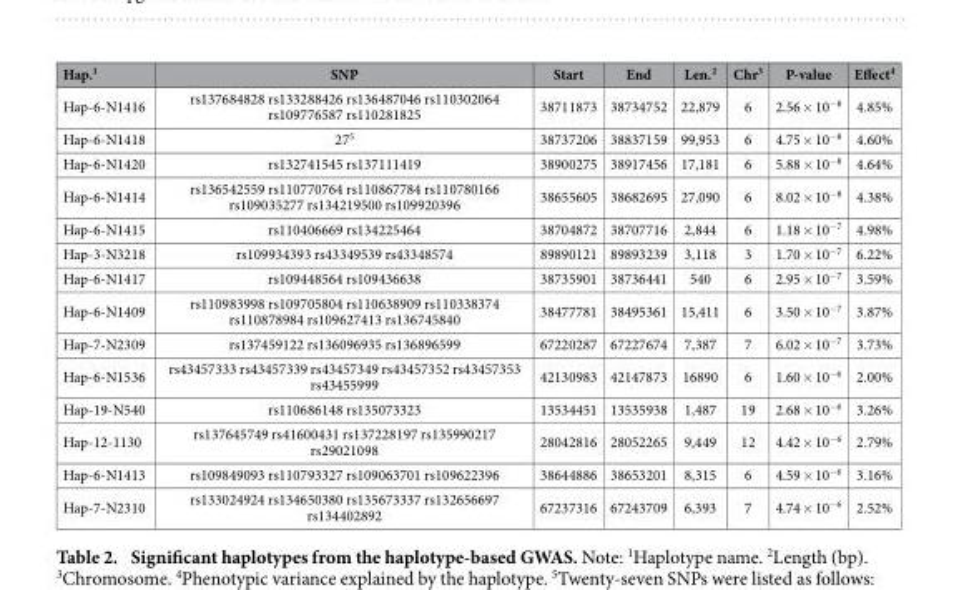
<table><thead><tr><td>Hap.<sup>1</sup></td><td>SNP</td><td>Start</td><td>End</td><td>Len.<sup>2</sup></td><td>Chr<sup>3</sup></td><td>P-value</td><td>Effect<sup>4</sup></td></tr></thead><tbody><tr><td>Hap-6-N1416</td><td>rs137684828 rs133288426 rs136487046 rs110302064 rs109776587 rs110281825</td><td>38711873</td><td>38734752</td><td>22,879</td><td>6</td><td>2.56 × 10<sup>−8</sup></td><td>4.85%</td></tr><tr><td>Hap-6-N1418</td><td>27<sup>5</sup></td><td>38737206</td><td>38837159</td><td>99,953</td><td>6</td><td>4.75 × 10<sup>−8</sup></td><td>4.60%</td></tr><tr><td>Hap-6-N1420</td><td>rs132741545 rs137111419</td><td>38900275</td><td>38917456</td><td>17,181</td><td>6</td><td>5.88 × 10<sup>−8</sup></td><td>4.64%</td></tr><tr><td>Hap-6-N1414</td><td>rs136542559 rs110770764 rs110867784 rs110780166 rs109035277 rs134219500 rs109920396</td><td>38655605</td><td>38682695</td><td>27,090</td><td>6</td><td>8.02 × 10<sup>−8</sup></td><td>4.38%</td></tr><tr><td>Hap-6-N1415</td><td>rs110406669 rs134225464</td><td>38704872</td><td>38707716</td><td>2,844</td><td>6</td><td>1.18 × 10<sup>−7</sup></td><td>4.98%</td></tr><tr><td>Hap-3-N3218</td><td>rs109934393 rs43349539 rs43348574</td><td>89890121</td><td>89893239</td><td>3,118</td><td>3</td><td>1.70 × 10<sup>−7</sup></td><td>6.22%</td></tr><tr><td>Hap-6-N1417</td><td>rs109448564 rs109436638</td><td>38735901</td><td>38736441</td><td>540</td><td>6</td><td>2.95 × 10<sup>−7</sup></td><td>3.59%</td></tr><tr><td>Hap-6-N1409</td><td>rs110983998 rs109705804 rs110638909 rs110338374 rs110878984 rs109627413 rs136745840</td><td>38477781</td><td>38495361</td><td>15,411</td><td>6</td><td>3.50 × 10<sup>−7</sup></td><td>3.87%</td></tr><tr><td>Hap-7-N2309</td><td>rs137459122 rs136096935 rs136896599</td><td>67220287</td><td>67227674</td><td>7,387</td><td>7</td><td>6.02 × 10<sup>−7</sup></td><td>3.73%</td></tr><tr><td>Hap-6-N1536</td><td>rs43457333 rs43457339 rs43457349 rs43457352 rs43457353 rs43455999</td><td>42130983</td><td>42147873</td><td>16890</td><td>6</td><td>1.60 × 10<sup>−6</sup></td><td>2.00%</td></tr><tr><td>Hap-19-N540</td><td>rs110686148 rs135073323</td><td>13534451</td><td>13535938</td><td>1,487</td><td>19</td><td>2.68 × 10<sup>−6</sup></td><td>3.26%</td></tr><tr><td>Hap-12-1130</td><td>rs137645749 rs41600431 rs137228197 rs135990217 rs29021098</td><td>28042816</td><td>28052265</td><td>9,449</td><td>12</td><td>4.42 × 10<sup>−6</sup></td><td>2.79%</td></tr><tr><td>Hap-6-N1413</td><td>rs109849093 rs110793327 rs109063701 rs109622396</td><td>38644886</td><td>38653201</td><td>8,315</td><td>6</td><td>4.59 × 10<sup>−6</sup></td><td>3.16%</td></tr><tr><td>Hap-7-N2310</td><td>rs133024924 rs134650380 rs135673337 rs132656697 rs134402892</td><td>67237316</td><td>67243709</td><td>6,393</td><td>7</td><td>4.74 × 10<sup>−6</sup></td><td>2.52%</td></tr></tbody></table>